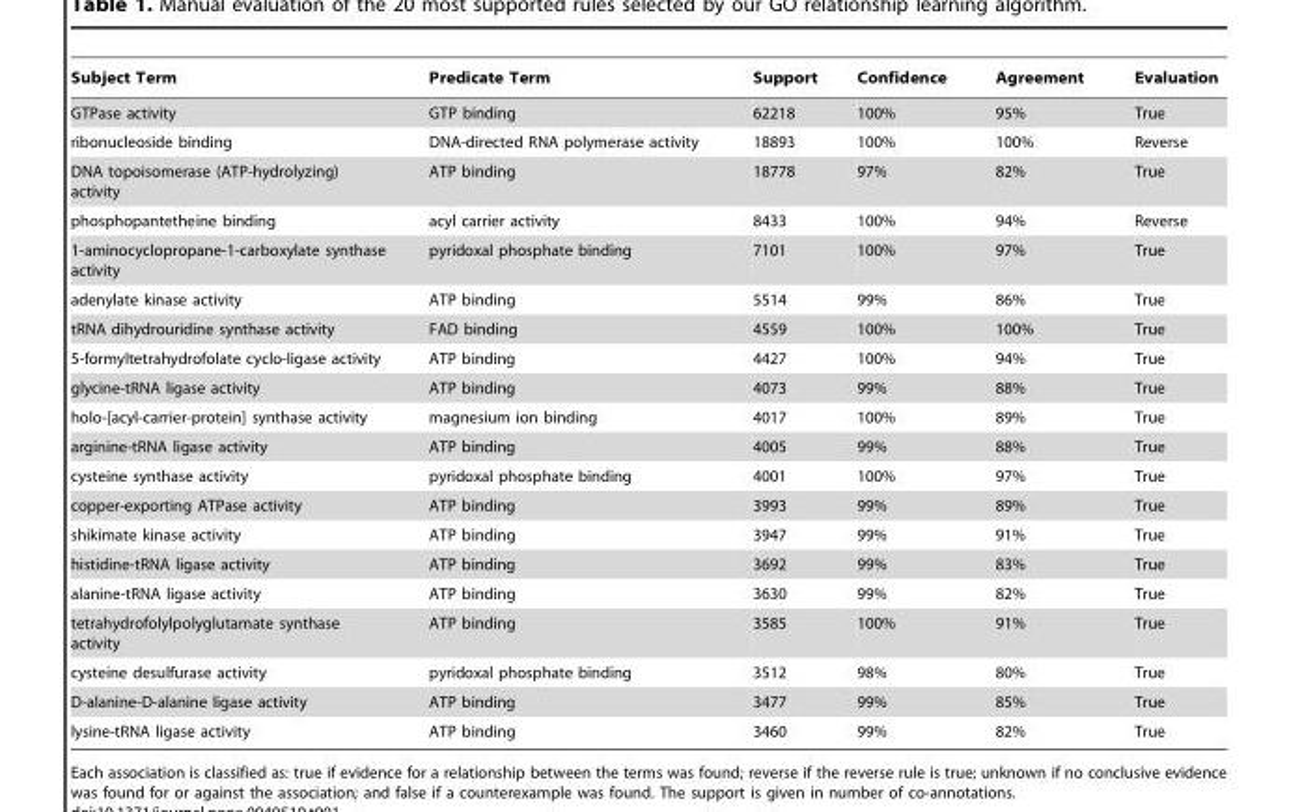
<table><thead><tr><td>Subject Term</td><td>Predicate Term</td><td>Support</td><td>Confidence</td><td>Agreement</td><td>Evaluation</td></tr></thead><tbody><tr><td>GTPase activity</td><td>GTP binding</td><td>62218</td><td>100%</td><td>95%</td><td>True</td></tr><tr><td>ribonucleoside binding</td><td>DNA-directed RNA polymerase activity</td><td>18893</td><td>100%</td><td>100%</td><td>Reverse</td></tr><tr><td>DNA topoisomerase (ATP-hydrolyzing) activity</td><td>ATP binding</td><td>18778</td><td>97%</td><td>82%</td><td>True</td></tr><tr><td>phosphopantetheine binding</td><td>acyl carrier activity</td><td>8433</td><td>100%</td><td>94%</td><td>Reverse</td></tr><tr><td>1-aminocyclopropane-1-carboxylate synthase activity</td><td>pyridoxal phosphate binding</td><td>7101</td><td>100%</td><td>97%</td><td>True</td></tr><tr><td>adenylate kinase activity</td><td>ATP binding</td><td>5514</td><td>99%</td><td>86%</td><td>True</td></tr><tr><td>tRNA dihydrouridine synthase activity</td><td>FAD binding</td><td>4559</td><td>100%</td><td>100%</td><td>True</td></tr><tr><td>5-formyltetrahydrofolate cyclo-ligase activity</td><td>ATP binding</td><td>4427</td><td>100%</td><td>94%</td><td>True</td></tr><tr><td>glycine-tRNA ligase activity</td><td>ATP binding</td><td>4073</td><td>99%</td><td>88%</td><td>True</td></tr><tr><td>holo-[acyl-carrier-protein] synthase activity</td><td>magnesium ion binding</td><td>4017</td><td>100%</td><td>89%</td><td>True</td></tr><tr><td>arginine-tRNA ligase activity</td><td>ATP binding</td><td>4005</td><td>99%</td><td>88%</td><td>True</td></tr><tr><td>cysteine synthase activity</td><td>pyridoxal phosphate binding</td><td>4001</td><td>100%</td><td>97%</td><td>True</td></tr><tr><td>copper-exporting ATPase activity</td><td>ATP binding</td><td>3993</td><td>99%</td><td>89%</td><td>True</td></tr><tr><td>shikimate kinase activity</td><td>ATP binding</td><td>3947</td><td>99%</td><td>91%</td><td>True</td></tr><tr><td>histidine-tRNA ligase activity</td><td>ATP binding</td><td>3692</td><td>99%</td><td>83%</td><td>True</td></tr><tr><td>alanine-tRNA ligase activity</td><td>ATP binding</td><td>3630</td><td>99%</td><td>82%</td><td>True</td></tr><tr><td>tetrahydrofolylpolyglutamate synthase activity</td><td>ATP binding</td><td>3585</td><td>100%</td><td>91%</td><td>True</td></tr><tr><td>cysteine desulfurase activity</td><td>pyridoxal phosphate binding</td><td>3512</td><td>98%</td><td>80%</td><td>True</td></tr><tr><td>D-alanine-D-alanine ligase activity</td><td>ATP binding</td><td>3477</td><td>99%</td><td>85%</td><td>True</td></tr><tr><td>lysine-tRNA ligase activity</td><td>ATP binding</td><td>3460</td><td>99%</td><td>82%</td><td>True</td></tr></tbody></table>